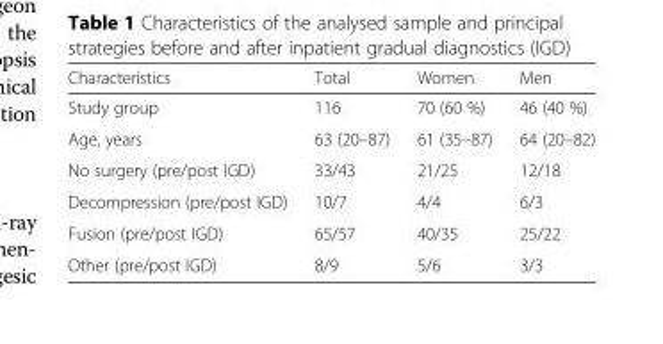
<table><thead><tr><td>Characteristics</td><td>Total</td><td>Women</td><td>Men</td></tr></thead><tbody><tr><td>Study group</td><td>116</td><td>70 (60 %)</td><td>46 (40 %)</td></tr><tr><td>Age, years</td><td>63 (20–87)</td><td>61 (35–87)</td><td>64 (20–82)</td></tr><tr><td>No surgery (pre/post IGD)</td><td>33/43</td><td>21/25</td><td>12/18</td></tr><tr><td>Decompression (pre/post IGD)</td><td>10/7</td><td>4/4</td><td>6/3</td></tr><tr><td>Fusion (pre/post IGD)</td><td>65/57</td><td>40/35</td><td>25/22</td></tr><tr><td>Other (pre/post IGD)</td><td>8/9</td><td>5/6</td><td>3/3</td></tr></tbody></table>